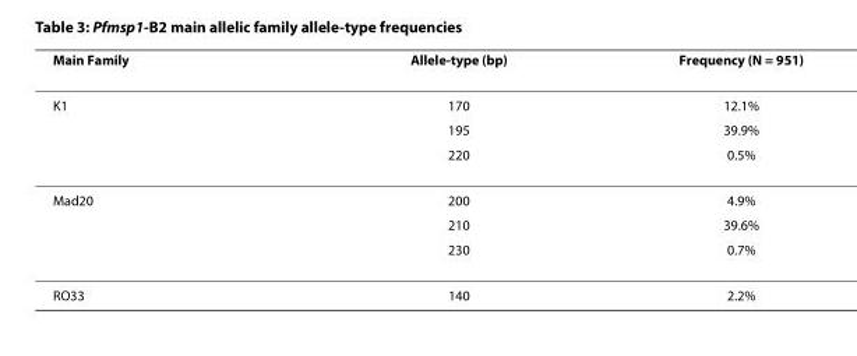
<table><thead><tr><td>Main Family</td><td>Allele-type (bp)</td><td>Frequency (N = 951)</td></tr></thead><tbody><tr><td rowspan="3">K1</td><td>170</td><td>12.1%</td></tr><tr><td>195</td><td>39.9%</td></tr><tr><td>220</td><td>0.5%</td></tr><tr><td rowspan="3">Mad20</td><td>200</td><td>4.9%</td></tr><tr><td>210</td><td>39.6%</td></tr><tr><td>230</td><td>0.7%</td></tr><tr><td>RO33</td><td>140</td><td>2.2%</td></tr></tbody></table>